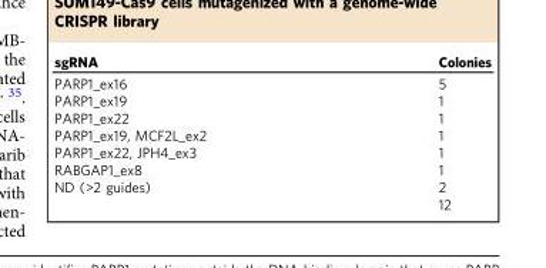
<table><thead><tr><td>sgRNA</td><td>Colonies</td></tr></thead><tbody><tr><td>PARP1_ex16</td><td>5</td></tr><tr><td>PARP1_ex19</td><td>1</td></tr><tr><td>PARP1_ex22</td><td>1</td></tr><tr><td>PARP1_ex19, MCF2L_ex2</td><td>1</td></tr><tr><td>PARP1_ex22, JPH4_ex3</td><td>1</td></tr><tr><td>RABGAP1_ex8</td><td>1</td></tr><tr><td rowspan="2">ND (&gt;2 guides)</td><td>2</td></tr><tr><td>12</td></tr></tbody></table>